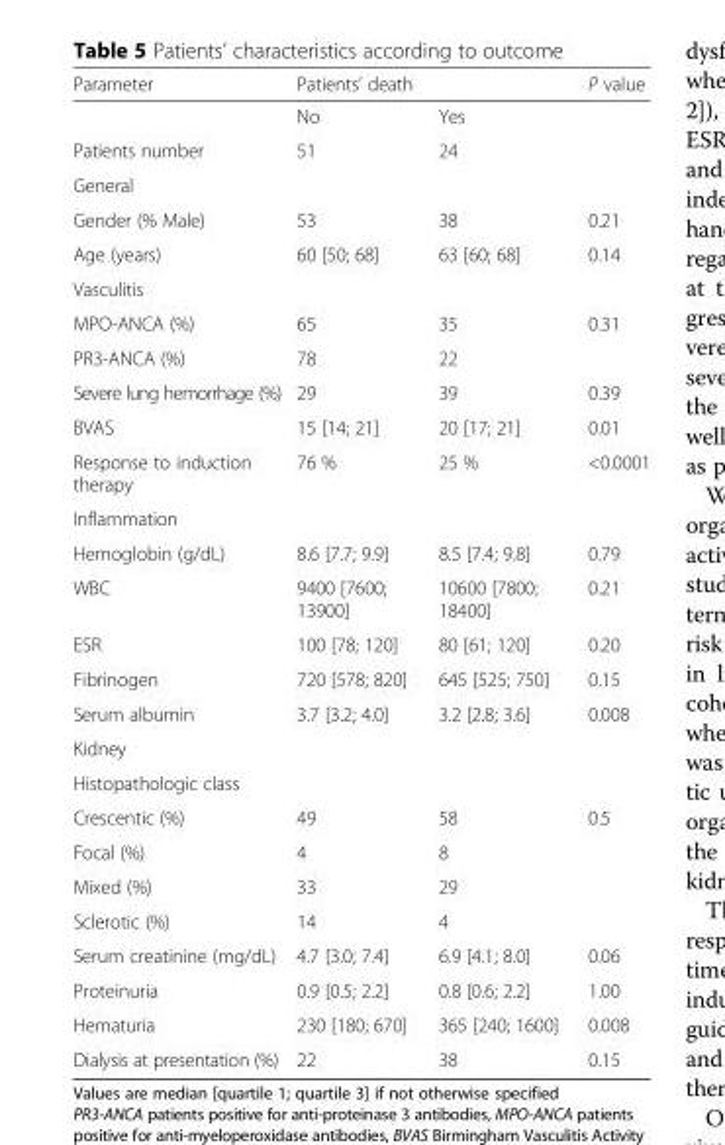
<table><thead><tr><td rowspan="2">Parameter</td><td colspan="2">Patients’ death</td><td rowspan="2">P value</td></tr><tr><td>No</td><td>Yes</td></tr></thead><tbody><tr><td>Patients number</td><td>51</td><td>24</td><td></td></tr><tr><td colspan="4">General</td></tr><tr><td>Gender (% Male)</td><td>53</td><td>38</td><td>0.21</td></tr><tr><td>Age (years)</td><td>60 [50; 68]</td><td>63 [60; 68]</td><td>0.14</td></tr><tr><td colspan="4">Vasculitis</td></tr><tr><td>MPO-ANCA (%)</td><td>65</td><td>35</td><td rowspan="2">0.31</td></tr><tr><td>PR3-ANCA (%)</td><td>78</td><td>22</td></tr><tr><td>Severe lung hemorrhage (%)</td><td>29</td><td>39</td><td>0.39</td></tr><tr><td>BVAS</td><td>15 [14; 21]</td><td>20 [17; 21]</td><td>0.01</td></tr><tr><td>Response to induction therapy</td><td>76 %</td><td>25 %</td><td>&lt;0.0001</td></tr><tr><td colspan="4">Inflammation</td></tr><tr><td>Hemoglobin (g/dL)</td><td>8.6 [7.7; 9.9]</td><td>8.5 [7.4; 9.8]</td><td>0.79</td></tr><tr><td>WBC</td><td>9400 [7600; 13900]</td><td>10600 [7800; 18400]</td><td>0.21</td></tr><tr><td>ESR</td><td>100 [78; 120]</td><td>80 [61; 120]</td><td>0.20</td></tr><tr><td>Fibrinogen</td><td>720 [578; 820]</td><td>645 [525; 750]</td><td>0.15</td></tr><tr><td>Serum albumin</td><td>3.7 [3.2; 4.0]</td><td>3.2 [2.8; 3.6]</td><td>0.008</td></tr><tr><td colspan="4">Kidney</td></tr><tr><td colspan="4">Histopathologic class</td></tr><tr><td>Crescentic (%)</td><td>49</td><td>58</td><td rowspan="4">0.5</td></tr><tr><td>Focal (%)</td><td>4</td><td>8</td></tr><tr><td>Mixed (%)</td><td>33</td><td>29</td></tr><tr><td>Sclerotic (%)</td><td>14</td><td>4</td></tr><tr><td>Serum creatinine (mg/dL)</td><td>4.7 [3.0; 7.4]</td><td>6.9 [4.1; 8.0]</td><td>0.06</td></tr><tr><td>Proteinuria</td><td>0.9 [0.5; 2.2]</td><td>0.8 [0.6; 2.2]</td><td>1.00</td></tr><tr><td>Hematuria</td><td>230 [180; 670]</td><td>365 [240; 1600]</td><td>0.008</td></tr><tr><td>Dialysis at presentation (%)</td><td>22</td><td>38</td><td>0.15</td></tr></tbody></table>